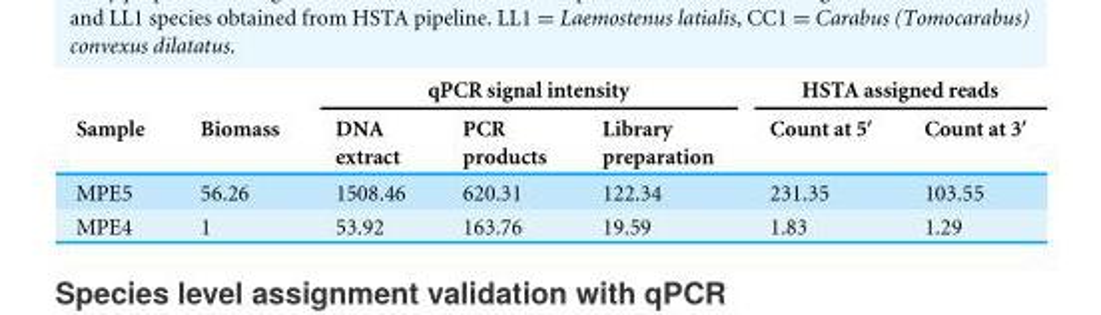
<table><thead><tr><td rowspan="2">Sample</td><td rowspan="2">Biomass</td><td colspan="3">qPCR signal intensity</td><td colspan="2">HSTA assigned reads</td></tr><tr><td>DNA extract</td><td>PCR products</td><td>Library preparation</td><td>Count at 5′</td><td>Count at 3′</td></tr></thead><tbody><tr><td>MPE5</td><td>56.26</td><td>1508.46</td><td>620.31</td><td>122.34</td><td>231.35</td><td>103.55</td></tr><tr><td>MPE4</td><td>1</td><td>53.92</td><td>163.76</td><td>19.59</td><td>1.83</td><td>1.29</td></tr></tbody></table>